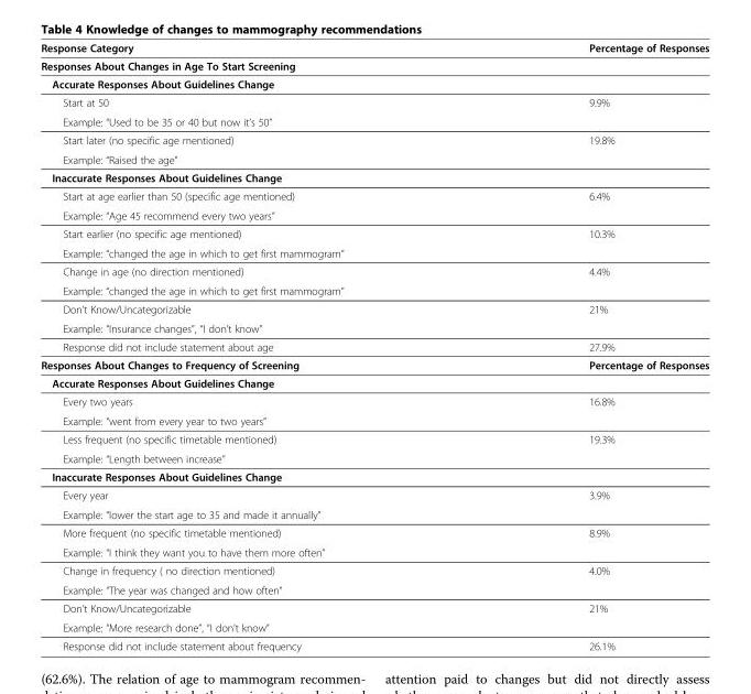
<table><thead><tr><td rowspan="2">Response Category Responses About Changes in Age To Start Screening</td><td rowspan="2">Percentage of Responses</td></tr><tr></tr></thead><tbody><tr><td colspan="2">Accurate Responses About Guidelines Change</td></tr><tr><td>Start at 50</td><td rowspan="2">9.9%</td></tr><tr><td>Example: “Used to be 35 or 40 but now it’s 50”</td></tr><tr><td>Start later (no specific age mentioned)</td><td rowspan="2">19.8%</td></tr><tr><td>Example: “Raised the age”</td></tr><tr><td colspan="2">Inaccurate Responses About Guidelines Change</td></tr><tr><td>Start at age earlier than 50 (specific age mentioned)</td><td rowspan="2">6.4%</td></tr><tr><td>Example: “Age 45 recommend every two years”</td></tr><tr><td>Start earlier (no specific age mentioned)</td><td rowspan="2">10.3%</td></tr><tr><td>Example: “changed the age in which to get first mammogram”</td></tr><tr><td>Change in age (no direction mentioned)</td><td rowspan="2">4.4%</td></tr><tr><td>Example: “changed the age in which to get first mammogram”</td></tr><tr><td>Don’t Know/Uncategorizable</td><td rowspan="2">21%</td></tr><tr><td>Example: “Insurance changes”, “I don’t know”</td></tr><tr><td>Response did not include statement about age</td><td>27.9%</td></tr><tr><td>Responses About Changes to Frequency of Screening</td><td>Percentage of Responses</td></tr><tr><td colspan="2">Accurate Responses About Guidelines Change</td></tr><tr><td>Every two years</td><td rowspan="2">16.8%</td></tr><tr><td>Example: “went from every year to two years”</td></tr><tr><td>Less frequent (no specific timetable mentioned)</td><td rowspan="2">19.3%</td></tr><tr><td>Example: “Length between increase”</td></tr><tr><td colspan="2">Inaccurate Responses About Guidelines Change</td></tr><tr><td>Every year</td><td rowspan="2">3.9%</td></tr><tr><td>Example: “lower the start age to 35 and made it annually”</td></tr><tr><td>More frequent (no specific timetable mentioned)</td><td rowspan="2">8.9%</td></tr><tr><td>Example: “I think they want you to have them more often”</td></tr><tr><td>Change in frequency ( no direction mentioned)</td><td rowspan="2">4.0%</td></tr><tr><td>Example: “The year was changed and how often”</td></tr><tr><td>Don’t Know/Uncategorizable</td><td rowspan="2">21%</td></tr><tr><td>Example: “More research done”, “I don’t know”</td></tr><tr><td>Response did not include statement about frequency</td><td>26.1%</td></tr></tbody></table>